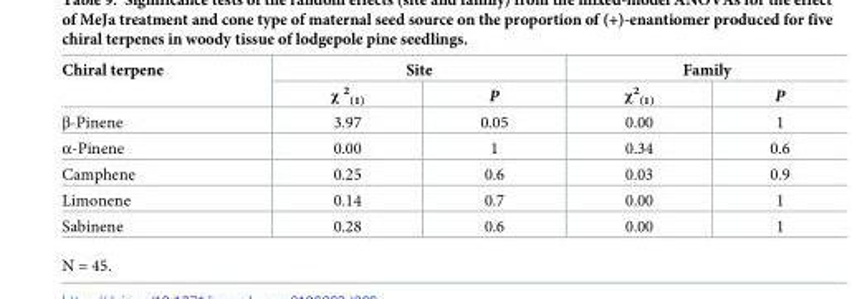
<table><thead><tr><td rowspan="2">Chiral terpene</td><td colspan="2">Site</td><td colspan="2">Family</td></tr><tr><td>χ <sup>2</sup> <sub>(1)</sub></td><td>P</td><td>χ<sup>2</sup> <sub>(1)</sub></td><td>P</td></tr></thead><tbody><tr><td>β-Pinene</td><td>3.97</td><td>0.05</td><td>0.00</td><td>1</td></tr><tr><td>α-Pinene</td><td>0.00</td><td>1</td><td>0.34</td><td>0.6</td></tr><tr><td>Camphene</td><td>0.25</td><td>0.6</td><td>0.03</td><td>0.9</td></tr><tr><td>Limonene</td><td>0.14</td><td>0.7</td><td>0.00</td><td>1</td></tr><tr><td>Sabinene</td><td>0.28</td><td>0.6</td><td>0.00</td><td>1</td></tr></tbody></table>